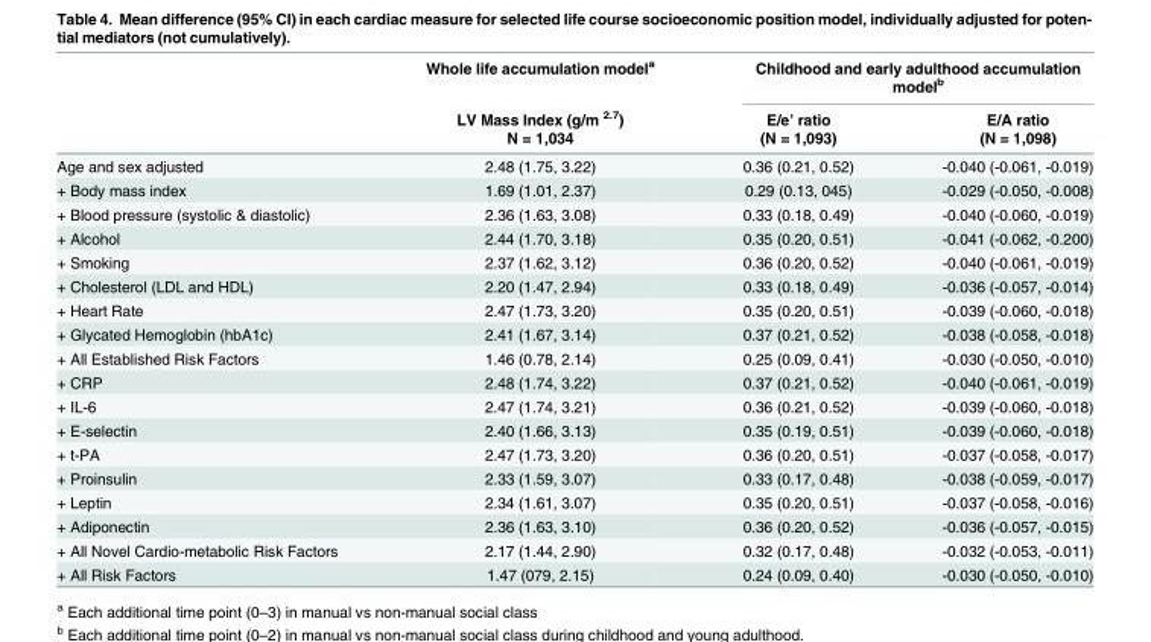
<table><thead><tr><td rowspan="3"></td><td rowspan="3">Whole life accumulation model<sup>a</sup> LV Mass Index (g/m <sup>2.7</sup>) N = 1,034</td><td colspan="2">Childhood and early adulthood accumulation model<sup>b</sup></td></tr><tr><td rowspan="2">E/e’ ratio (N = 1,093)</td><td rowspan="2">E/A ratio (N = 1,098)</td></tr><tr></tr></thead><tbody><tr><td>Age and sex adjusted</td><td>2.48 (1.75, 3.22)</td><td>0.36 (0.21, 0.52)</td><td>-0.040 (-0.061, -0.019)</td></tr><tr><td>+ Body mass index</td><td>1.69 (1.01, 2.37)</td><td>0.29 (0.13, 045)</td><td>-0.029 (-0.050, -0.008)</td></tr><tr><td>+ Blood pressure (systolic &amp; diastolic)</td><td>2.36 (1.63, 3.08)</td><td>0.33 (0.18, 0.49)</td><td>-0.040 (-0.060, -0.019)</td></tr><tr><td>+ Alcohol</td><td>2.44 (1.70, 3.18)</td><td>0.35 (0.20, 0.51)</td><td>-0.041 (-0.062, -0.200)</td></tr><tr><td>+ Smoking</td><td>2.37 (1.62, 3.12)</td><td>0.36 (0.20, 0.52)</td><td>-0.040 (-0.061, -0.019)</td></tr><tr><td>+ Cholesterol (LDL and HDL)</td><td>2.20 (1.47, 2.94)</td><td>0.33 (0.18, 0.49)</td><td>-0.036 (-0.057, -0.014)</td></tr><tr><td>+ Heart Rate</td><td>2.47 (1.73, 3.20)</td><td>0.35 (0.20, 0.51)</td><td>-0.039 (-0.060, -0.018)</td></tr><tr><td>+ Glycated Hemoglobin (hbA1c)</td><td>2.41 (1.67, 3.14)</td><td>0.37 (0.21, 0.52)</td><td>-0.038 (-0.058, -0.018)</td></tr><tr><td>+ All Established Risk Factors</td><td>1.46 (0.78, 2.14)</td><td>0.25 (0.09, 0.41)</td><td>-0.030 (-0.050, -0.010)</td></tr><tr><td>+ CRP</td><td>2.48 (1.74, 3.22)</td><td>0.37 (0.21, 0.52)</td><td>-0.040 (-0.061, -0.019)</td></tr><tr><td>+ IL-6</td><td>2.47 (1.74, 3.21)</td><td>0.36 (0.21, 0.52)</td><td>-0.039 (-0.060, -0.018)</td></tr><tr><td>+ E-selectin</td><td>2.40 (1.66, 3.13)</td><td>0.35 (0.19, 0.51)</td><td>-0.039 (-0.060, -0.018)</td></tr><tr><td>+ t-PA</td><td>2.47 (1.73, 3.20)</td><td>0.36 (0.20, 0.51)</td><td>-0.037 (-0.058, -0.017)</td></tr><tr><td>+ Proinsulin</td><td>2.33 (1.59, 3.07)</td><td>0.33 (0.17, 0.48)</td><td>-0.038 (-0.059, -0.017)</td></tr><tr><td>+ Leptin</td><td>2.34 (1.61, 3.07)</td><td>0.35 (0.20, 0.51)</td><td>-0.037 (-0.058, -0.016)</td></tr><tr><td>+ Adiponectin</td><td>2.36 (1.63, 3.10)</td><td>0.36 (0.20, 0.52)</td><td>-0.036 (-0.057, -0.015)</td></tr><tr><td>+ All Novel Cardio-metabolic Risk Factors</td><td>2.17 (1.44, 2.90)</td><td>0.32 (0.17, 0.48)</td><td>-0.032 (-0.053, -0.011)</td></tr><tr><td>+ All Risk Factors</td><td>1.47 (079, 2.15)</td><td>0.24 (0.09, 0.40)</td><td>-0.030 (-0.050, -0.010)</td></tr></tbody></table>